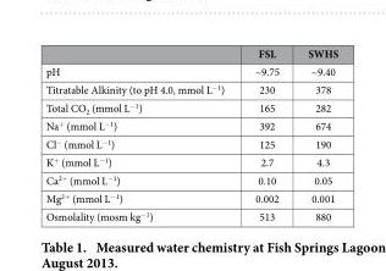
<table><thead><tr><td></td><td>FSL</td><td>SWHS</td></tr></thead><tbody><tr><td>pH</td><td>~9.75</td><td>~9.40</td></tr><tr><td>Titratable Alkinity (to pH 4.0, mmol L<sup>−1</sup>)</td><td>230</td><td>378</td></tr><tr><td>Total CO<sub>2</sub> (mmol L<sup>−1</sup>)</td><td>165</td><td>282</td></tr><tr><td>Na<sup>+</sup> (mmol L<sup>−1</sup>)</td><td>392</td><td>674</td></tr><tr><td>Cl<sup>−</sup> (mmol L<sup>−1</sup>)</td><td>125</td><td>190</td></tr><tr><td>K<sup>+</sup> (mmol L<sup>−1</sup>)</td><td>2.7</td><td>4.3</td></tr><tr><td>Ca<sup>2+</sup> (mmol L<sup>−1</sup>)</td><td>0.10</td><td>0.05</td></tr><tr><td>Mg<sup>2+</sup> (mmol L<sup>−1</sup>)</td><td>0.002</td><td>0.001</td></tr><tr><td>Osmolality (mosm kg<sup>−1</sup>)</td><td>513</td><td>880</td></tr></tbody></table>